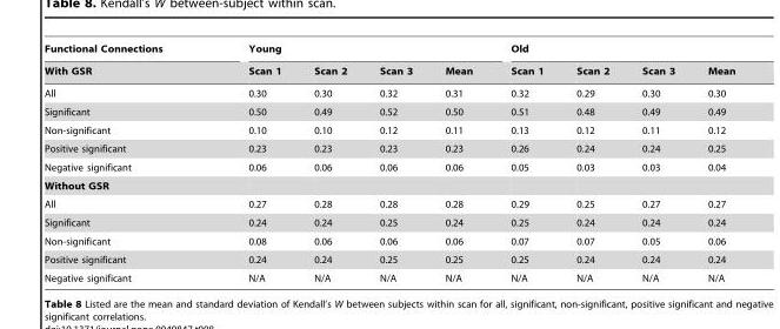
<table><thead><tr><td rowspan="2">Functional Connections With GSR</td><td colspan="4">Young</td><td colspan="4">Old</td></tr><tr><td>Scan 1</td><td>Scan 2</td><td>Scan 3</td><td>Mean</td><td>Scan 1</td><td>Scan 2</td><td>Scan 3</td><td>Mean</td></tr></thead><tbody><tr><td>All</td><td>0.30</td><td>0.30</td><td>0.32</td><td>0.31</td><td>0.32</td><td>0.29</td><td>0.30</td><td>0.30</td></tr><tr><td>Significant</td><td>0.50</td><td>0.49</td><td>0.52</td><td>0.50</td><td>0.51</td><td>0.48</td><td>0.49</td><td>0.49</td></tr><tr><td>Non-significant</td><td>0.10</td><td>0.10</td><td>0.12</td><td>0.11</td><td>0.13</td><td>0.12</td><td>0.11</td><td>0.12</td></tr><tr><td>Positive significant</td><td>0.23</td><td>0.23</td><td>0.23</td><td>0.23</td><td>0.26</td><td>0.24</td><td>0.24</td><td>0.25</td></tr><tr><td>Negative significant</td><td>0.06</td><td>0.06</td><td>0.06</td><td>0.06</td><td>0.05</td><td>0.03</td><td>0.03</td><td>0.04</td></tr><tr><td colspan="9">Without GSR</td></tr><tr><td>All</td><td>0.27</td><td>0.28</td><td>0.28</td><td>0.28</td><td>0.29</td><td>0.25</td><td>0.27</td><td>0.27</td></tr><tr><td>Significant</td><td>0.24</td><td>0.24</td><td>0.25</td><td>0.24</td><td>0.25</td><td>0.24</td><td>0.24</td><td>0.24</td></tr><tr><td>Non-significant</td><td>0.08</td><td>0.06</td><td>0.06</td><td>0.06</td><td>0.07</td><td>0.07</td><td>0.05</td><td>0.06</td></tr><tr><td>Positive significant</td><td>0.24</td><td>0.24</td><td>0.25</td><td>0.25</td><td>0.25</td><td>0.24</td><td>0.24</td><td>0.24</td></tr><tr><td>Negative significant</td><td>N/A</td><td>N/A</td><td>N/A</td><td>N/A</td><td>N/A</td><td>N/A</td><td>N/A</td><td>N/A</td></tr></tbody></table>